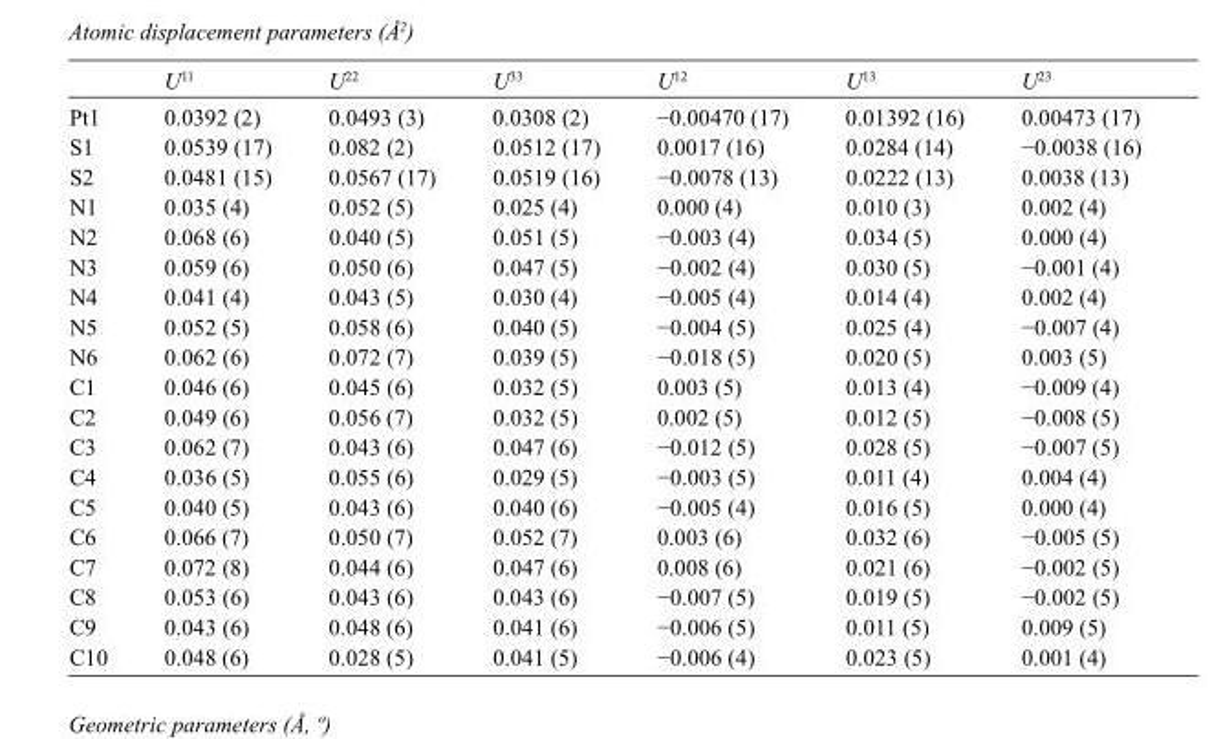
<table><thead><tr><td></td><td>U<sup>11</sup></td><td>U<sup>22</sup></td><td>U<sup>33</sup></td><td>U<sup>12</sup></td><td>U<sup>13</sup></td><td>U<sup>23</sup></td></tr></thead><tbody><tr><td>Pt1</td><td>0.0392 (2)</td><td>0.0493 (3)</td><td>0.0308 (2)</td><td>−0.00470 (17)</td><td>0.01392 (16)</td><td>0.00473 (17)</td></tr><tr><td>S1</td><td>0.0539 (17)</td><td>0.082 (2)</td><td>0.0512 (17)</td><td>0.0017 (16)</td><td>0.0284 (14)</td><td>−0.0038 (16)</td></tr><tr><td>S2</td><td>0.0481 (15)</td><td>0.0567 (17)</td><td>0.0519 (16)</td><td>−0.0078 (13)</td><td>0.0222 (13)</td><td>0.0038 (13)</td></tr><tr><td>N1</td><td>0.035 (4)</td><td>0.052 (5)</td><td>0.025 (4)</td><td>0.000 (4)</td><td>0.010 (3)</td><td>0.002 (4)</td></tr><tr><td>N2</td><td>0.068 (6)</td><td>0.040 (5)</td><td>0.051 (5)</td><td>−0.003 (4)</td><td>0.034 (5)</td><td>0.000 (4)</td></tr><tr><td>N3</td><td>0.059 (6)</td><td>0.050 (6)</td><td>0.047 (5)</td><td>−0.002 (4)</td><td>0.030 (5)</td><td>−0.001 (4)</td></tr><tr><td>N4</td><td>0.041 (4)</td><td>0.043 (5)</td><td>0.030 (4)</td><td>−0.005 (4)</td><td>0.014 (4)</td><td>0.002 (4)</td></tr><tr><td>N5</td><td>0.052 (5)</td><td>0.058 (6)</td><td>0.040 (5)</td><td>−0.004 (5)</td><td>0.025 (4)</td><td>−0.007 (4)</td></tr><tr><td>N6</td><td>0.062 (6)</td><td>0.072 (7)</td><td>0.039 (5)</td><td>−0.018 (5)</td><td>0.020 (5)</td><td>0.003 (5)</td></tr><tr><td>C1</td><td>0.046 (6)</td><td>0.045 (6)</td><td>0.032 (5)</td><td>0.003 (5)</td><td>0.013 (4)</td><td>−0.009 (4)</td></tr><tr><td>C2</td><td>0.049 (6)</td><td>0.056 (7)</td><td>0.032 (5)</td><td>0.002 (5)</td><td>0.012 (5)</td><td>−0.008 (5)</td></tr><tr><td>C3</td><td>0.062 (7)</td><td>0.043 (6)</td><td>0.047 (6)</td><td>−0.012 (5)</td><td>0.028 (5)</td><td>−0.007 (5)</td></tr><tr><td>C4</td><td>0.036 (5)</td><td>0.055 (6)</td><td>0.029 (5)</td><td>−0.003 (5)</td><td>0.011 (4)</td><td>0.004 (4)</td></tr><tr><td>C5</td><td>0.040 (5)</td><td>0.043 (6)</td><td>0.040 (6)</td><td>−0.005 (4)</td><td>0.016 (5)</td><td>0.000 (4)</td></tr><tr><td>C6</td><td>0.066 (7)</td><td>0.050 (7)</td><td>0.052 (7)</td><td>0.003 (6)</td><td>0.032 (6)</td><td>−0.005 (5)</td></tr><tr><td>C7</td><td>0.072 (8)</td><td>0.044 (6)</td><td>0.047 (6)</td><td>0.008 (6)</td><td>0.021 (6)</td><td>−0.002 (5)</td></tr><tr><td>C8</td><td>0.053 (6)</td><td>0.043 (6)</td><td>0.043 (6)</td><td>−0.007 (5)</td><td>0.019 (5)</td><td>−0.002 (5)</td></tr><tr><td>C9</td><td>0.043 (6)</td><td>0.048 (6)</td><td>0.041 (6)</td><td>−0.006 (5)</td><td>0.011 (5)</td><td>0.009 (5)</td></tr><tr><td>C10</td><td>0.048 (6)</td><td>0.028 (5)</td><td>0.041 (5)</td><td>−0.006 (4)</td><td>0.023 (5)</td><td>0.001 (4)</td></tr></tbody></table>